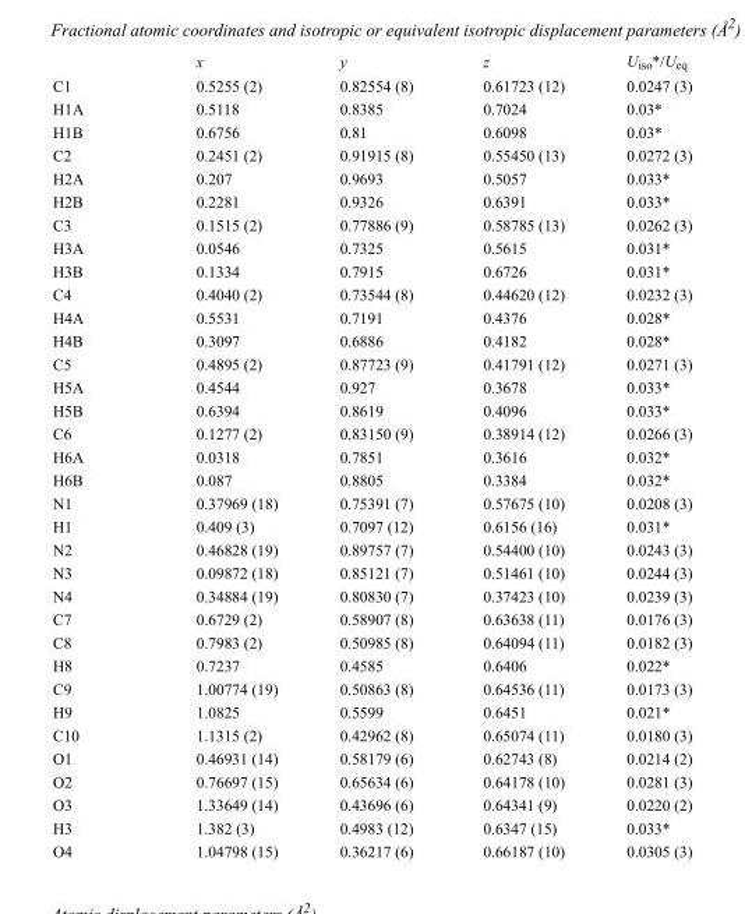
<table><thead><tr><td></td><td>x</td><td>y</td><td>z</td><td>U<sub>iso</sub>*/U<sub>eq</sub></td></tr></thead><tbody><tr><td>C1</td><td>0.5255 (2)</td><td>0.82554 (8)</td><td>0.61723 (12)</td><td>0.0247 (3)</td></tr><tr><td>H1A</td><td>0.5118</td><td>0.8385</td><td>0.7024</td><td>0.03*</td></tr><tr><td>H1B</td><td>0.6756</td><td>0.81</td><td>0.6098</td><td>0.03*</td></tr><tr><td>C2</td><td>0.2451 (2)</td><td>0.91915 (8)</td><td>0.55450 (13)</td><td>0.0272 (3)</td></tr><tr><td>H2A</td><td>0.207</td><td>0.9693</td><td>0.5057</td><td>0.033*</td></tr><tr><td>H2B</td><td>0.2281</td><td>0.9326</td><td>0.6391</td><td>0.033*</td></tr><tr><td>C3</td><td>0.1515 (2)</td><td>0.77886 (9)</td><td>0.58785 (13)</td><td>0.0262 (3)</td></tr><tr><td>H3A</td><td>0.0546</td><td>0.7325</td><td>0.5615</td><td>0.031*</td></tr><tr><td>H3B</td><td>0.1334</td><td>0.7915</td><td>0.6726</td><td>0.031*</td></tr><tr><td>C4</td><td>0.4040 (2)</td><td>0.73544 (8)</td><td>0.44620 (12)</td><td>0.0232 (3)</td></tr><tr><td>H4A</td><td>0.5531</td><td>0.7191</td><td>0.4376</td><td>0.028*</td></tr><tr><td>H4B</td><td>0.3097</td><td>0.6886</td><td>0.4182</td><td>0.028*</td></tr><tr><td>C5</td><td>0.4895 (2)</td><td>0.87723 (9)</td><td>0.41791 (12)</td><td>0.0271 (3)</td></tr><tr><td>H5A</td><td>0.4544</td><td>0.927</td><td>0.3678</td><td>0.033*</td></tr><tr><td>H5B</td><td>0.6394</td><td>0.8619</td><td>0.4096</td><td>0.033*</td></tr><tr><td>C6</td><td>0.1277 (2)</td><td>0.83150 (9)</td><td>0.38914 (12)</td><td>0.0266 (3)</td></tr><tr><td>H6A</td><td>0.0318</td><td>0.7851</td><td>0.3616</td><td>0.032*</td></tr><tr><td>H6B</td><td>0.087</td><td>0.8805</td><td>0.3384</td><td>0.032*</td></tr><tr><td>N1</td><td>0.37969 (18)</td><td>0.75391 (7)</td><td>0.57675 (10)</td><td>0.0208 (3)</td></tr><tr><td>H1</td><td>0.409 (3)</td><td>0.7097 (12)</td><td>0.6156 (16)</td><td>0.031*</td></tr><tr><td>N2</td><td>0.46828 (19)</td><td>0.89757 (7)</td><td>0.54400 (10)</td><td>0.0243 (3)</td></tr><tr><td>N3</td><td>0.09872 (18)</td><td>0.85121 (7)</td><td>0.51461 (10)</td><td>0.0244 (3)</td></tr><tr><td>N4</td><td>0.34884 (19)</td><td>0.80830 (7)</td><td>0.37423 (10)</td><td>0.0239 (3)</td></tr><tr><td>C7</td><td>0.6729 (2)</td><td>0.58907 (8)</td><td>0.63638 (11)</td><td>0.0176 (3)</td></tr><tr><td>C8</td><td>0.7983 (2)</td><td>0.50985 (8)</td><td>0.64094 (11)</td><td>0.0182 (3)</td></tr><tr><td>H8</td><td>0.7237</td><td>0.4585</td><td>0.6406</td><td>0.022*</td></tr><tr><td>C9</td><td>1.00774 (19)</td><td>0.50863 (8)</td><td>0.64536 (11)</td><td>0.0173 (3)</td></tr><tr><td>H9</td><td>1.0825</td><td>0.5599</td><td>0.6451</td><td>0.021*</td></tr><tr><td>C10</td><td>1.1315 (2)</td><td>0.42962 (8)</td><td>0.65074 (11)</td><td>0.0180 (3)</td></tr><tr><td>O1</td><td>0.46931 (14)</td><td>0.58179 (6)</td><td>0.62743 (8)</td><td>0.0214 (2)</td></tr><tr><td>O2</td><td>0.76697 (15)</td><td>0.65634 (6)</td><td>0.64178 (10)</td><td>0.0281 (3)</td></tr><tr><td>O3</td><td>1.33649 (14)</td><td>0.43696 (6)</td><td>0.64341 (9)</td><td>0.0220 (2)</td></tr><tr><td>H3</td><td>1.382 (3)</td><td>0.4983 (12)</td><td>0.6347 (15)</td><td>0.033*</td></tr><tr><td>O4</td><td>1.04798 (15)</td><td>0.36217 (6)</td><td>0.66187 (10)</td><td>0.0305 (3)</td></tr></tbody></table>